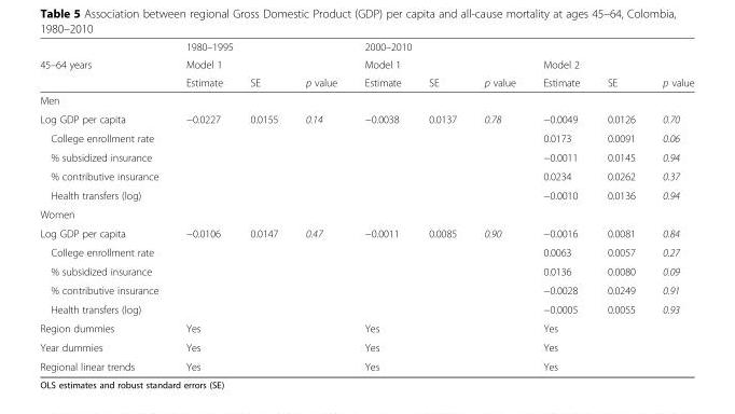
<table><thead><tr><td rowspan="3">45–64 years</td><td rowspan="2" colspan="3">1980–1995 Model 1</td><td rowspan="2" colspan="3">2000–2010 Model 1</td><td></td><td></td><td></td></tr><tr><td colspan="3">Model 2</td></tr><tr><td>Estimate</td><td>SE</td><td>p value</td><td>Estimate</td><td>SE</td><td>p value</td><td>Estimate</td><td>SE</td><td>p value</td></tr></thead><tbody><tr><td colspan="10">Men</td></tr><tr><td>Log GDP per capita</td><td>−0.0227</td><td>0.0155</td><td>0.14</td><td>−0.0038</td><td>0.0137</td><td>0.78</td><td>−0.0049</td><td>0.0126</td><td>0.70</td></tr><tr><td>College enrollment rate</td><td></td><td></td><td></td><td></td><td></td><td></td><td>0.0173</td><td>0.0091</td><td>0.06</td></tr><tr><td>% subsidized insurance</td><td></td><td></td><td></td><td></td><td></td><td></td><td>−0.0011</td><td>0.0145</td><td>0.94</td></tr><tr><td>% contributive insurance</td><td></td><td></td><td></td><td></td><td></td><td></td><td>0.0234</td><td>0.0262</td><td>0.37</td></tr><tr><td>Health transfers (log)</td><td></td><td></td><td></td><td></td><td></td><td></td><td>−0.0010</td><td>0.0136</td><td>0.94</td></tr><tr><td colspan="10">Women</td></tr><tr><td>Log GDP per capita</td><td>−0.0106</td><td>0.0147</td><td>0.47</td><td>−0.0011</td><td>0.0085</td><td>0.90</td><td>−0.0016</td><td>0.0081</td><td>0.84</td></tr><tr><td>College enrollment rate</td><td></td><td></td><td></td><td></td><td></td><td></td><td>0.0063</td><td>0.0057</td><td>0.27</td></tr><tr><td>% subsidized insurance</td><td></td><td></td><td></td><td></td><td></td><td></td><td>0.0136</td><td>0.0080</td><td>0.09</td></tr><tr><td>% contributive insurance</td><td></td><td></td><td></td><td></td><td></td><td></td><td>−0.0028</td><td>0.0249</td><td>0.91</td></tr><tr><td>Health transfers (log)</td><td></td><td></td><td></td><td></td><td></td><td></td><td>−0.0005</td><td>0.0055</td><td>0.93</td></tr><tr><td>Region dummies</td><td colspan="3">Yes</td><td colspan="3">Yes</td><td colspan="3">Yes</td></tr><tr><td>Year dummies</td><td colspan="3">Yes</td><td colspan="3">Yes</td><td colspan="3">Yes</td></tr><tr><td>Regional linear trends</td><td colspan="3">Yes</td><td colspan="3">Yes</td><td colspan="3">Yes</td></tr></tbody></table>